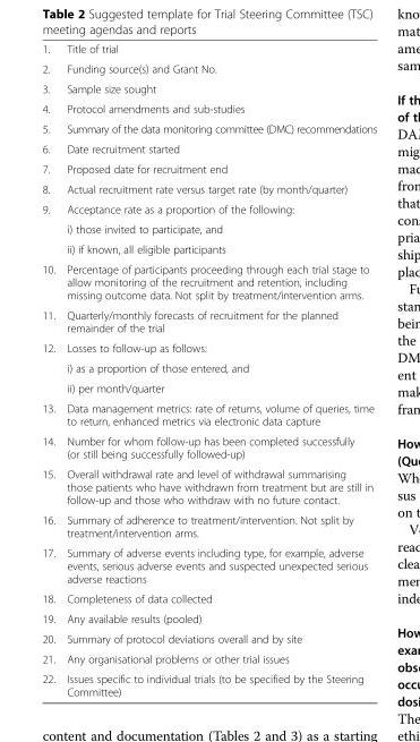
<table><tbody><tr><td>1.</td><td>Title of trial</td></tr><tr><td>2.</td><td>Funding source(s) and Grant No.</td></tr><tr><td>3.</td><td>Sample size sought</td></tr><tr><td>4.</td><td>Protocol amendments and sub-studies</td></tr><tr><td>5.</td><td>Summary of the data monitoring committee (DMC) recommendations</td></tr><tr><td>6.</td><td>Date recruitment started</td></tr><tr><td>7.</td><td>Proposed date for recruitment end</td></tr><tr><td>8.</td><td>Actual recruitment rate versus target rate (by month/quarter)</td></tr><tr><td rowspan="3">9.</td><td>Acceptance rate as a proportion of the following:</td></tr><tr><td>i) those invited to participate, and</td></tr><tr><td>ii) if known, all eligible participants</td></tr><tr><td>10.</td><td>Percentage of participants proceeding through each trial stage to allow monitoring of the recruitment and retention, including missing outcome data. Not split by treatment/intervention arms.</td></tr><tr><td>11.</td><td>Quarterly/monthly forecasts of recruitment for the planned remainder of the trial</td></tr><tr><td rowspan="3">12.</td><td>Losses to follow-up as follows:</td></tr><tr><td>i) as a proportion of those entered, and</td></tr><tr><td>ii) per month/quarter</td></tr><tr><td>13.</td><td>Data management metrics: rate of returns, volume of queries, time to return, enhanced metrics via electronic data capture</td></tr><tr><td>14.</td><td>Number for whom follow-up has been completed successfully (or still being successfully followed-up)</td></tr><tr><td>15.</td><td>Overall withdrawal rate and level of withdrawal summarising those patients who have withdrawn from treatment but are still in follow-up and those who withdraw with no future contact.</td></tr><tr><td>16.</td><td>Summary of adherence to treatment/intervention. Not split by treatment/intervention arms.</td></tr><tr><td>17.</td><td>Summary of adverse events including type, for example, adverse events, serious adverse events and suspected unexpected serious adverse reactions</td></tr><tr><td>18.</td><td>Completeness of data collected</td></tr><tr><td>19.</td><td>Any available results (pooled)</td></tr><tr><td>20.</td><td>Summary of protocol deviations overall and by site</td></tr><tr><td>21.</td><td>Any organisational problems or other trial issues</td></tr><tr><td>22.</td><td>Issues specific to individual trials (to be specified by the Steering Committee)</td></tr></tbody></table>